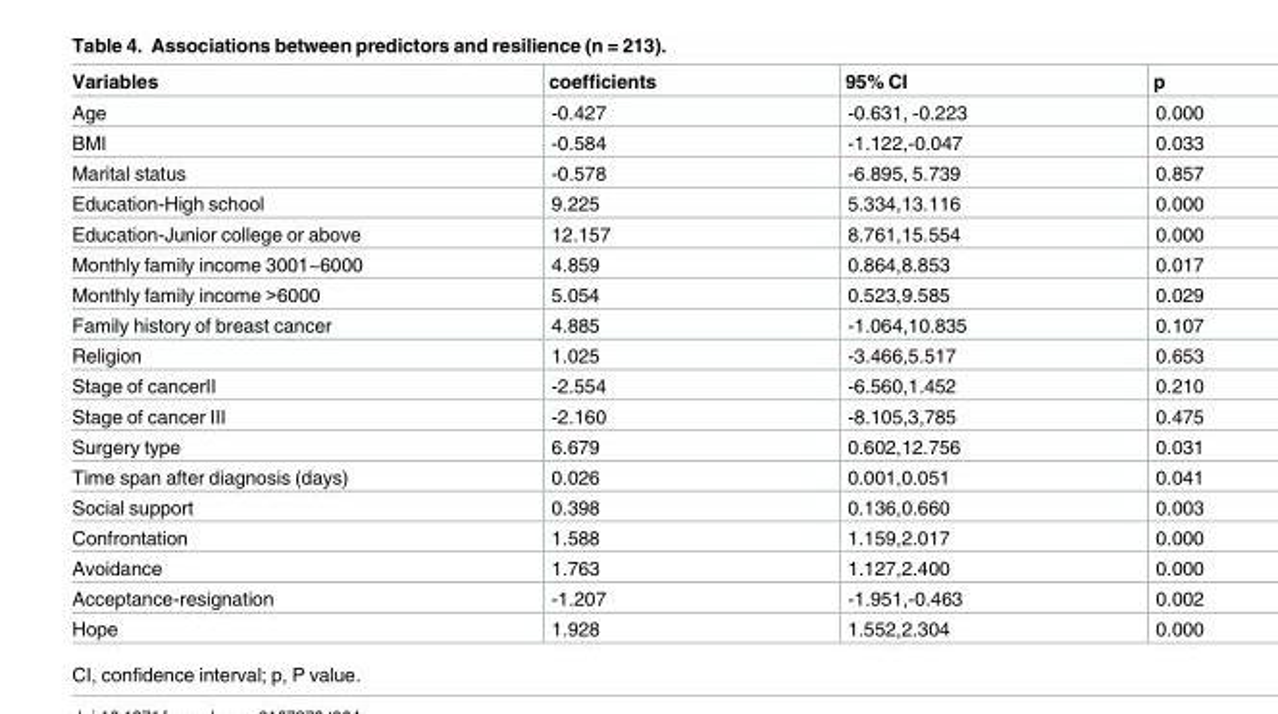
<table><thead><tr><td>Variables</td><td>coefficients</td><td>95% CI</td><td>p</td></tr></thead><tbody><tr><td>Age</td><td>-0.427</td><td>-0.631, -0.223</td><td>0.000</td></tr><tr><td>BMI</td><td>-0.584</td><td>-1.122,-0.047</td><td>0.033</td></tr><tr><td>Marital status</td><td>-0.578</td><td>-6.895, 5.739</td><td>0.857</td></tr><tr><td>Education-High school</td><td>9.225</td><td>5.334,13.116</td><td>0.000</td></tr><tr><td>Education-Junior college or above</td><td>12.157</td><td>8.761,15.554</td><td>0.000</td></tr><tr><td>Monthly family income 3001~6000</td><td>4.859</td><td>0.864,8.853</td><td>0.017</td></tr><tr><td>Monthly family income &gt;6000</td><td>5.054</td><td>0.523,9.585</td><td>0.029</td></tr><tr><td>Family history of breast cancer</td><td>4.885</td><td>-1.064,10.835</td><td>0.107</td></tr><tr><td>Religion</td><td>1.025</td><td>-3.466,5.517</td><td>0.653</td></tr><tr><td>Stage of cancerⅡ</td><td>-2.554</td><td>-6.560,1.452</td><td>0.210</td></tr><tr><td>Stage of cancer Ⅲ</td><td>-2.160</td><td>-8.105,3,785</td><td>0.475</td></tr><tr><td>Surgery type</td><td>6.679</td><td>0.602,12.756</td><td>0.031</td></tr><tr><td>Time span after diagnosis (days)</td><td>0.026</td><td>0.001,0.051</td><td>0.041</td></tr><tr><td>Social support</td><td>0.398</td><td>0.136,0.660</td><td>0.003</td></tr><tr><td>Confrontation</td><td>1.588</td><td>1.159,2.017</td><td>0.000</td></tr><tr><td>Avoidance</td><td>1.763</td><td>1.127,2.400</td><td>0.000</td></tr><tr><td>Acceptance-resignation</td><td>-1.207</td><td>-1.951,-0.463</td><td>0.002</td></tr><tr><td>Hope</td><td>1.928</td><td>1.552,2.304</td><td>0.000</td></tr></tbody></table>